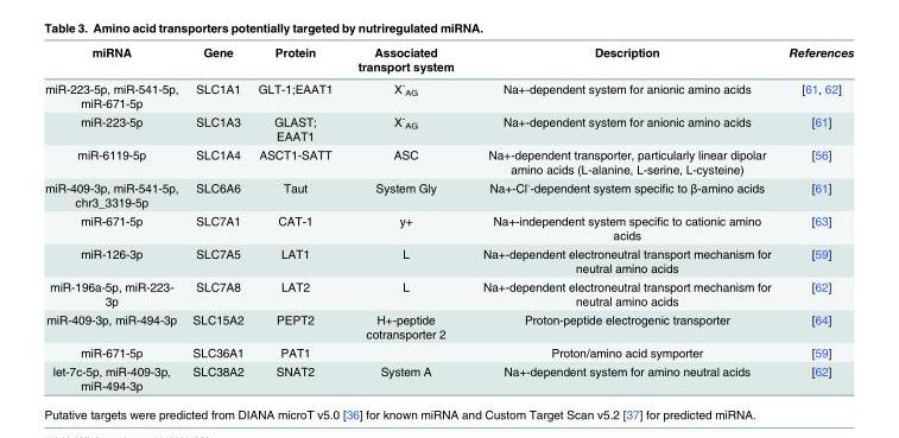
<table><thead><tr><td>miRNA</td><td>Gene</td><td>Protein</td><td>Associated transport system</td><td>Description</td><td>References</td></tr></thead><tbody><tr><td>miR-223-5p, miR-541-5p, miR-671-5p</td><td>SLC1A1</td><td>GLT-1;EAAT1</td><td>X<sup>-</sup> <sub>AG</sub></td><td>Na+-dependent system for anionic amino acids</td><td>[61, 62]</td></tr><tr><td>miR-223-5p</td><td>SLC1A3</td><td>GLAST; EAAT1</td><td>X<sup>-</sup> <sub>AG</sub></td><td>Na+-dependent system for anionic amino acids</td><td>[61]</td></tr><tr><td>miR-6119-5p</td><td>SLC1A4</td><td>ASCT1-SATT</td><td>ASC</td><td>Na+-dependent transporter, particularly linear dipolar amino acids (L-alanine, L-serine, L-cysteine)</td><td>[56]</td></tr><tr><td>miR-409-3p, miR-541-5p, chr3_3319-5p</td><td>SLC6A6</td><td>Taut</td><td>System Gly</td><td>Na+-Cl<sup>-</sup>-dependent system specific to β-amino acids</td><td>[61]</td></tr><tr><td>miR-671-5p</td><td>SLC7A1</td><td>CAT-1</td><td>y+</td><td>Na+-independent system specific to cationic amino acids</td><td>[63]</td></tr><tr><td>miR-126-3p</td><td>SLC7A5</td><td>LAT1</td><td>L</td><td>Na+-dependent electroneutral transport mechanism for neutral amino acids</td><td>[59]</td></tr><tr><td>miR-196a-5p, miR-223- 3p</td><td>SLC7A8</td><td>LAT2</td><td>L</td><td>Na+-dependent electroneutral transport mechanism for neutral amino acids</td><td>[62]</td></tr><tr><td>miR-409-3p, miR-494-3p</td><td>SLC15A2</td><td>PEPT2</td><td>H+-peptide cotransporter 2</td><td>Proton-peptide electrogenic transporter</td><td>[64]</td></tr><tr><td>miR-671-5p</td><td>SLC36A1</td><td>PAT1</td><td></td><td>Proton/amino acid symporter</td><td>[59]</td></tr><tr><td>let-7c-5p, miR-409-3p, miR-494-3p</td><td>SLC38A2</td><td>SNAT2</td><td>System A</td><td>Na+-dependent system for amino neutral acids</td><td>[62]</td></tr></tbody></table>